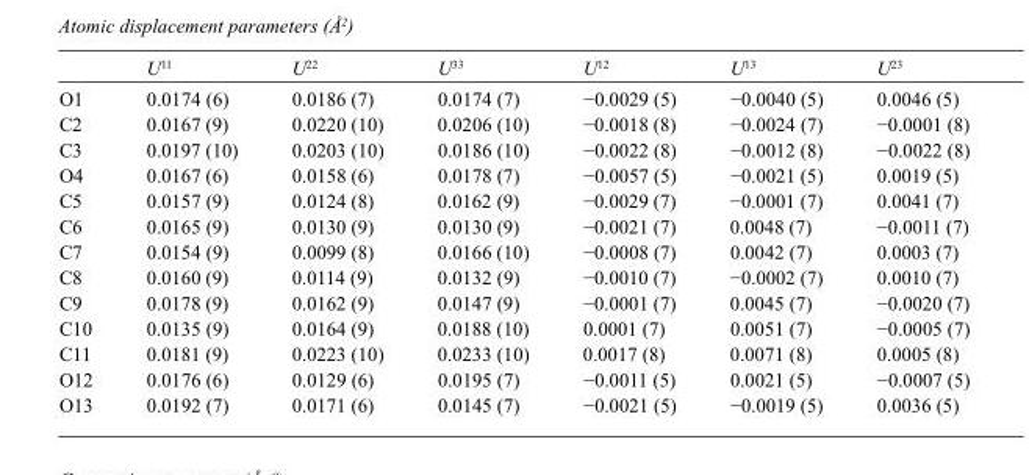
<table><thead><tr><td></td><td>U<sup>11</sup></td><td>U<sup>22</sup></td><td>U<sup>33</sup></td><td>U<sup>12</sup></td><td>U<sup>13</sup></td><td>U<sup>23</sup></td></tr></thead><tbody><tr><td>O1</td><td>0.0174 (6)</td><td>0.0186 (7)</td><td>0.0174 (7)</td><td>−0.0029 (5)</td><td>−0.0040 (5)</td><td>0.0046 (5)</td></tr><tr><td>C2</td><td>0.0167 (9)</td><td>0.0220 (10)</td><td>0.0206 (10)</td><td>−0.0018 (8)</td><td>−0.0024 (7)</td><td>−0.0001 (8)</td></tr><tr><td>C3</td><td>0.0197 (10)</td><td>0.0203 (10)</td><td>0.0186 (10)</td><td>−0.0022 (8)</td><td>−0.0012 (8)</td><td>−0.0022 (8)</td></tr><tr><td>O4</td><td>0.0167 (6)</td><td>0.0158 (6)</td><td>0.0178 (7)</td><td>−0.0057 (5)</td><td>−0.0021 (5)</td><td>0.0019 (5)</td></tr><tr><td>C5</td><td>0.0157 (9)</td><td>0.0124 (8)</td><td>0.0162 (9)</td><td>−0.0029 (7)</td><td>−0.0001 (7)</td><td>0.0041 (7)</td></tr><tr><td>C6</td><td>0.0165 (9)</td><td>0.0130 (9)</td><td>0.0130 (9)</td><td>−0.0021 (7)</td><td>0.0048 (7)</td><td>−0.0011 (7)</td></tr><tr><td>C7</td><td>0.0154 (9)</td><td>0.0099 (8)</td><td>0.0166 (10)</td><td>−0.0008 (7)</td><td>0.0042 (7)</td><td>0.0003 (7)</td></tr><tr><td>C8</td><td>0.0160 (9)</td><td>0.0114 (9)</td><td>0.0132 (9)</td><td>−0.0010 (7)</td><td>−0.0002 (7)</td><td>0.0010 (7)</td></tr><tr><td>C9</td><td>0.0178 (9)</td><td>0.0162 (9)</td><td>0.0147 (9)</td><td>−0.0001 (7)</td><td>0.0045 (7)</td><td>−0.0020 (7)</td></tr><tr><td>C10</td><td>0.0135 (9)</td><td>0.0164 (9)</td><td>0.0188 (10)</td><td>0.0001 (7)</td><td>0.0051 (7)</td><td>−0.0005 (7)</td></tr><tr><td>C11</td><td>0.0181 (9)</td><td>0.0223 (10)</td><td>0.0233 (10)</td><td>0.0017 (8)</td><td>0.0071 (8)</td><td>0.0005 (8)</td></tr><tr><td>O12</td><td>0.0176 (6)</td><td>0.0129 (6)</td><td>0.0195 (7)</td><td>−0.0011 (5)</td><td>0.0021 (5)</td><td>−0.0007 (5)</td></tr><tr><td>O13</td><td>0.0192 (7)</td><td>0.0171 (6)</td><td>0.0145 (7)</td><td>−0.0021 (5)</td><td>−0.0019 (5)</td><td>0.0036 (5)</td></tr></tbody></table>